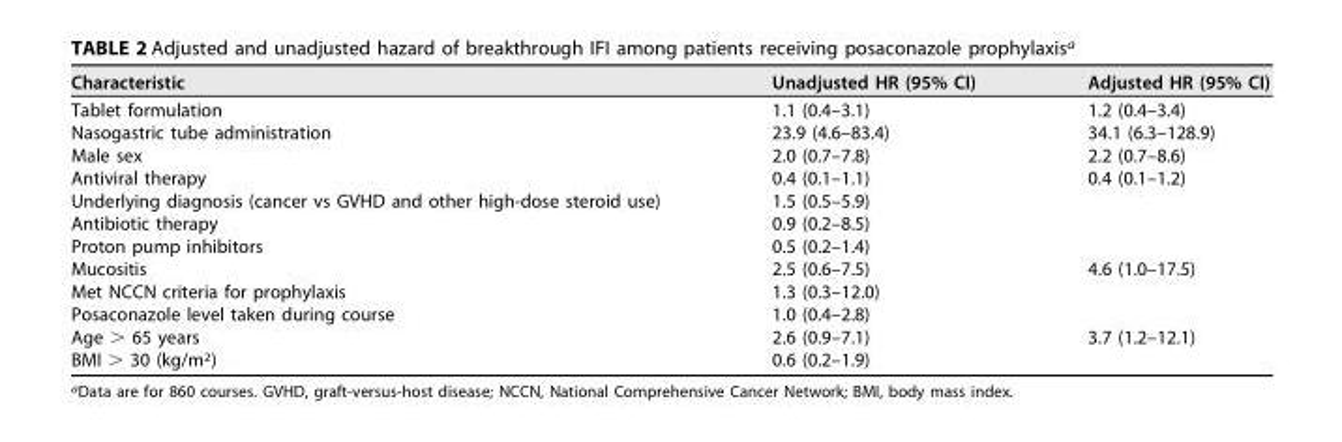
<table><thead><tr><td>Characteristic</td><td>Unadjusted HR (95% CI)</td><td>Adjusted HR (95% CI)</td></tr></thead><tbody><tr><td>Tablet formulation</td><td>1.1 (0.4–3.1)</td><td>1.2 (0.4–3.4)</td></tr><tr><td>Nasogastric tube administration</td><td>23.9 (4.6–83.4)</td><td>34.1 (6.3–128.9)</td></tr><tr><td>Male sex</td><td>2.0 (0.7–7.8)</td><td>2.2 (0.7–8.6)</td></tr><tr><td>Antiviral therapy</td><td>0.4 (0.1–1.1)</td><td>0.4 (0.1–1.2)</td></tr><tr><td>Underlying diagnosis (cancer vs GVHD and other high-dose steroid use)</td><td>1.5 (0.5–5.9)</td><td></td></tr><tr><td>Antibiotic therapy</td><td>0.9 (0.2–8.5)</td><td></td></tr><tr><td>Proton pump inhibitors</td><td>0.5 (0.2–1.4)</td><td></td></tr><tr><td>Mucositis</td><td>2.5 (0.6–7.5)</td><td>4.6 (1.0–17.5)</td></tr><tr><td>Met NCCN criteria for prophylaxis</td><td>1.3 (0.3–12.0)</td><td></td></tr><tr><td>Posaconazole level taken during course</td><td>1.0 (0.4–2.8)</td><td></td></tr><tr><td>Age &gt; 65 years</td><td>2.6 (0.9–7.1)</td><td>3.7 (1.2–12.1)</td></tr><tr><td>BMI &gt; 30 (kg/m<sup>2</sup>)</td><td>0.6 (0.2–1.9)</td><td></td></tr></tbody></table>